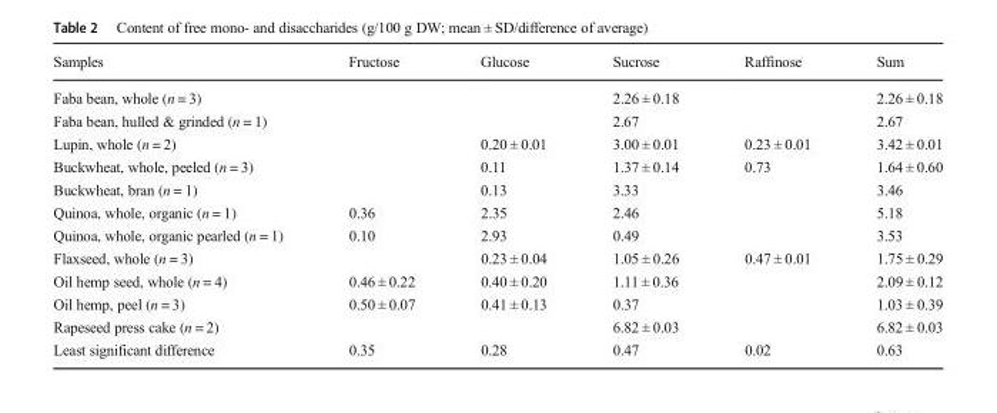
<table><thead><tr><td>Samples</td><td>Fructose</td><td>Glucose</td><td>Sucrose</td><td>Raffinose</td><td>Sum</td></tr></thead><tbody><tr><td>Faba bean, whole (n = 3)</td><td></td><td></td><td>2.26 ± 0.18</td><td></td><td>2.26 ± 0.18</td></tr><tr><td>Faba bean, hulled &amp; grinded (n = 1)</td><td></td><td></td><td>2.67</td><td></td><td>2.67</td></tr><tr><td>Lupin, whole (n = 2)</td><td></td><td>0.20 ± 0.01</td><td>3.00 ± 0.01</td><td>0.23 ± 0.01</td><td>3.42 ± 0.01</td></tr><tr><td>Buckwheat, whole, peeled (n = 3)</td><td></td><td>0.11</td><td>1.37 ± 0.14</td><td>0.73</td><td>1.64 ± 0.60</td></tr><tr><td>Buckwheat, bran (n = 1)</td><td></td><td>0.13</td><td>3.33</td><td></td><td>3.46</td></tr><tr><td>Quinoa, whole, organic (n = 1)</td><td>0.36</td><td>2.35</td><td>2.46</td><td></td><td>5.18</td></tr><tr><td>Quinoa, whole, organic pearled (n = 1)</td><td>0.10</td><td>2.93</td><td>0.49</td><td></td><td>3.53</td></tr><tr><td>Flaxseed, whole (n = 3)</td><td></td><td>0.23 ± 0.04</td><td>1.05 ± 0.26</td><td>0.47 ± 0.01</td><td>1.75 ± 0.29</td></tr><tr><td>Oil hemp seed, whole (n = 4)</td><td>0.46 ± 0.22</td><td>0.40 ± 0.20</td><td>1.11 ± 0.36</td><td></td><td>2.09 ± 0.12</td></tr><tr><td>Oil hemp, peel (n = 3)</td><td>0.50 ± 0.07</td><td>0.41 ± 0.13</td><td>0.37</td><td></td><td>1.03 ± 0.39</td></tr><tr><td>Rapeseed press cake (n = 2)</td><td></td><td></td><td>6.82 ± 0.03</td><td></td><td>6.82 ± 0.03</td></tr><tr><td>Least significant difference</td><td>0.35</td><td>0.28</td><td>0.47</td><td>0.02</td><td>0.63</td></tr></tbody></table>